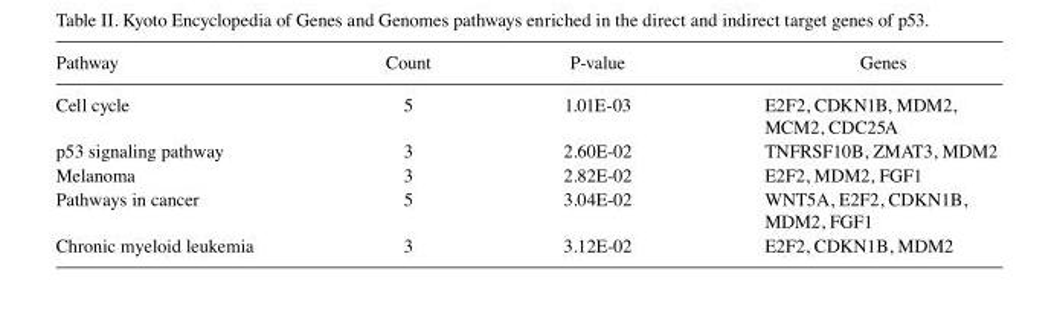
<table><thead><tr><td>Pathway</td><td>Count</td><td>P-value</td><td>Genes</td></tr></thead><tbody><tr><td>Cell cycle</td><td>5</td><td>1.01E-03</td><td>E2F2, CDKN1B, MDM2, MCM2, CDC25A</td></tr><tr><td>p53 signaling pathway</td><td>3</td><td>2.60E-02</td><td>TNFRSF10B, ZMAT3, MDM2</td></tr><tr><td>Melanoma</td><td>3</td><td>2.82E-02</td><td>E2F2, MDM2, FGF1</td></tr><tr><td>Pathways in cancer</td><td>5</td><td>3.04E-02</td><td>WNT5A, E2F2, CDKN1B, MDM2, FGF1</td></tr><tr><td>Chronic myeloid leukemia</td><td>3</td><td>3.12E-02</td><td>E2F2, CDKN1B, MDM2</td></tr></tbody></table>